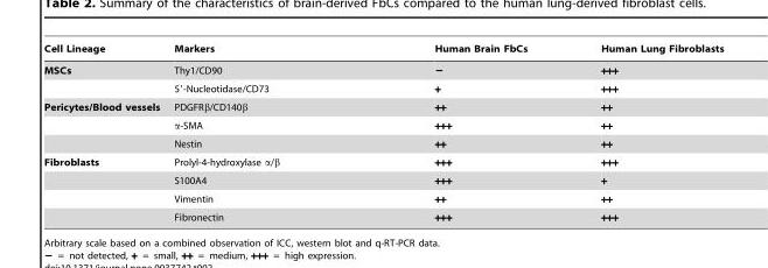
<table><thead><tr><td>Cell Lineage</td><td>Markers</td><td>Human Brain FbCs</td><td>Human Lung Fibroblasts</td></tr></thead><tbody><tr><td rowspan="2">MSCs</td><td>Thy1/CD90</td><td>−</td><td>+++</td></tr><tr><td>5′-Nucleotidase/CD73</td><td>+</td><td>+++</td></tr><tr><td rowspan="3">Pericytes/Blood vessels</td><td>PDGFRβ/CD140β</td><td>++</td><td>++</td></tr><tr><td>α-SMA</td><td>+++</td><td>++</td></tr><tr><td>Nestin</td><td>++</td><td>++</td></tr><tr><td rowspan="4">Fibroblasts</td><td>Prolyl-4-hydroxylase α/β</td><td>+++</td><td>+++</td></tr><tr><td>S100A4</td><td>+++</td><td>+</td></tr><tr><td>Vimentin</td><td>++</td><td>++</td></tr><tr><td>Fibronectin</td><td>+++</td><td>+++</td></tr></tbody></table>